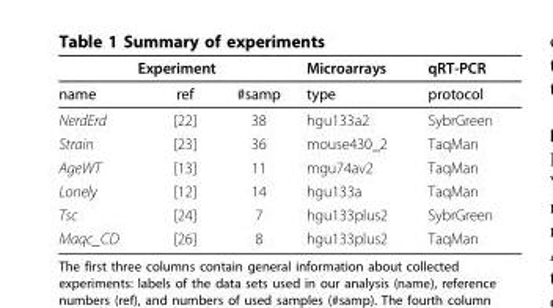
<table><thead><tr><td colspan="3">Experiment</td><td rowspan="2">Microarrays type</td><td rowspan="2">qRT-PCR protocol</td></tr><tr><td>name</td><td>ref</td><td>#samp</td></tr></thead><tbody><tr><td>NerdErd</td><td>[22]</td><td>38</td><td>hgu133a2</td><td>SybrGreen</td></tr><tr><td>Strain</td><td>[23]</td><td>36</td><td>mouse430_2</td><td>TaqMan</td></tr><tr><td>AgeWT</td><td>[13]</td><td>11</td><td>mgu74av2</td><td>TaqMan</td></tr><tr><td>Lonely</td><td>[12]</td><td>14</td><td>hgu133a</td><td>TaqMan</td></tr><tr><td>Tsc</td><td>[24]</td><td>7</td><td>hgu133plus2</td><td>SybrGreen</td></tr><tr><td>Maqc_CD</td><td>[26]</td><td>8</td><td>hgu133plus2</td><td>TaqMan</td></tr></tbody></table>